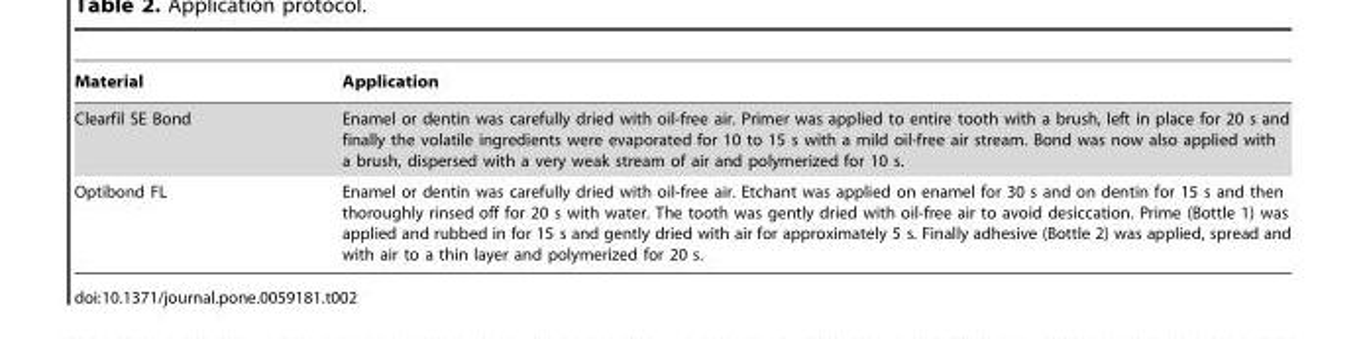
<table><thead><tr><td>Material</td><td>Application</td></tr></thead><tbody><tr><td>Clearfil SE Bond</td><td>Enamel or dentin was carefully dried with oil-free air. Primer was applied to entire tooth with a brush, left in place for 20 s and finally the volatile ingredients were evaporated for 10 to 15 s with a mild oil-free air stream. Bond was now also applied with a brush, dispersed with a very weak stream of air and polymerized for 10 s.</td></tr><tr><td>Optibond FL</td><td>Enamel or dentin was carefully dried with oil-free air. Etchant was applied on enamel for 30 s and on dentin for 15 s and then thoroughly rinsed off for 20 s with water. The tooth was gently dried with oil-free air to avoid desiccation. Prime (Bottle 1) was applied and rubbed in for 15 s and gently dried with air for approximately 5 s. Finally adhesive (Bottle 2) was applied, spread and with air to a thin layer and polymerized for 20 s.</td></tr></tbody></table>